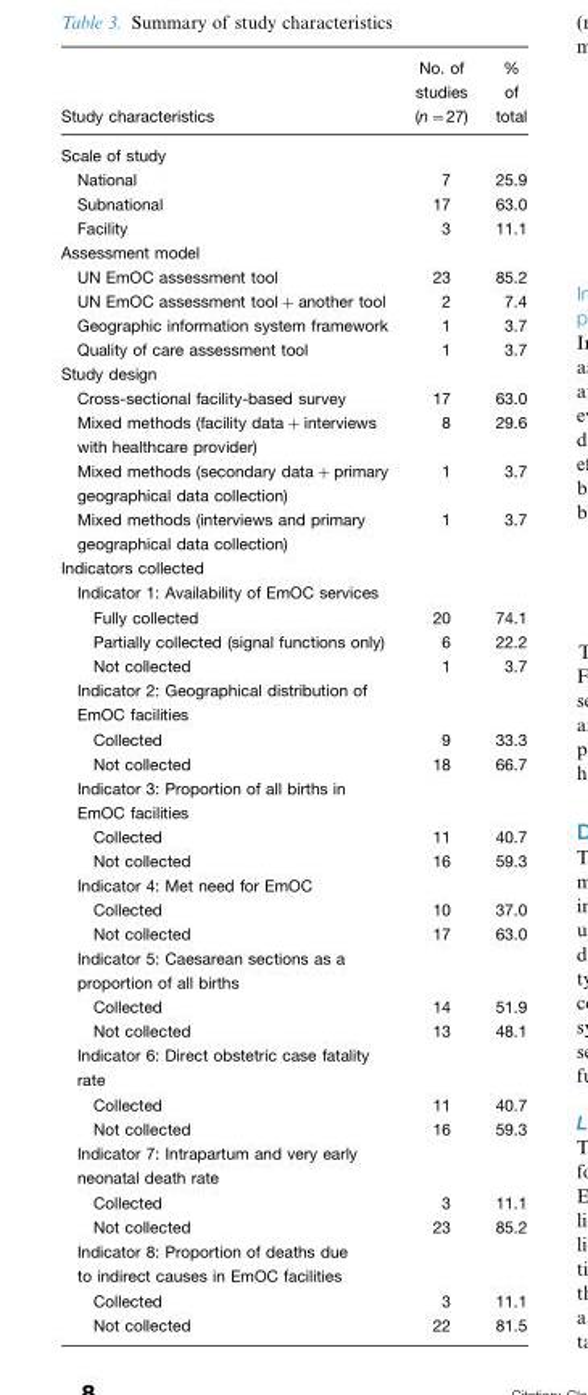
<table><thead><tr><td>Study characteristics</td><td>No. of studies (n=27)</td><td>% of total</td></tr></thead><tbody><tr><td colspan="3">Scale of study</td></tr><tr><td>National</td><td>7</td><td>25.9</td></tr><tr><td>Subnational</td><td>17</td><td>63.0</td></tr><tr><td>Facility</td><td>3</td><td>11.1</td></tr><tr><td colspan="3">Assessment model</td></tr><tr><td>UN EmOC assessment tool</td><td>23</td><td>85.2</td></tr><tr><td>UN EmOC assessment tool+another tool</td><td>2</td><td>7.4</td></tr><tr><td>Geographic information system framework</td><td>1</td><td>3.7</td></tr><tr><td>Quality of care assessment tool</td><td>1</td><td>3.7</td></tr><tr><td colspan="3">Study design</td></tr><tr><td>Cross-sectional facility-based survey</td><td>17</td><td>63.0</td></tr><tr><td>Mixed methods (facility data+interviews with healthcare provider)</td><td>8</td><td>29.6</td></tr><tr><td>Mixed methods (secondary data+primary geographical data collection)</td><td>1</td><td>3.7</td></tr><tr><td>Mixed methods (interviews and primary geographical data collection)</td><td>1</td><td>3.7</td></tr><tr><td colspan="3">Indicators collected</td></tr><tr><td colspan="3">Indicator 1: Availability of EmOC services</td></tr><tr><td>Fully collected</td><td>20</td><td>74.1</td></tr><tr><td>Partially collected (signal functions only)</td><td>6</td><td>22.2</td></tr><tr><td>Not collected</td><td>1</td><td>3.7</td></tr><tr><td colspan="3">Indicator 2: Geographical distribution of EmOC facilities</td></tr><tr><td>Collected</td><td>9</td><td>33.3</td></tr><tr><td>Not collected</td><td>18</td><td>66.7</td></tr><tr><td colspan="3">Indicator 3: Proportion of all births in EmOC facilities</td></tr><tr><td>Collected</td><td>11</td><td>40.7</td></tr><tr><td>Not collected</td><td>16</td><td>59.3</td></tr><tr><td colspan="3">Indicator 4: Met need for EmOC</td></tr><tr><td>Collected</td><td>10</td><td>37.0</td></tr><tr><td>Not collected</td><td>17</td><td>63.0</td></tr><tr><td colspan="3">Indicator 5: Caesarean sections as a proportion of all births</td></tr><tr><td>Collected</td><td>14</td><td>51.9</td></tr><tr><td>Not collected</td><td>13</td><td>48.1</td></tr><tr><td colspan="3">Indicator 6: Direct obstetric case fatality rate</td></tr><tr><td>Collected</td><td>11</td><td>40.7</td></tr><tr><td>Not collected</td><td>16</td><td>59.3</td></tr><tr><td colspan="3">Indicator 7: Intrapartum and very early neonatal death rate</td></tr><tr><td>Collected</td><td>3</td><td>11.1</td></tr><tr><td>Not collected</td><td>23</td><td>85.2</td></tr><tr><td colspan="3">Indicator 8: Proportion of deaths due to indirect causes in EmOC facilities</td></tr><tr><td>Collected</td><td>3</td><td>11.1</td></tr><tr><td>Not collected</td><td>22</td><td>81.5</td></tr></tbody></table>